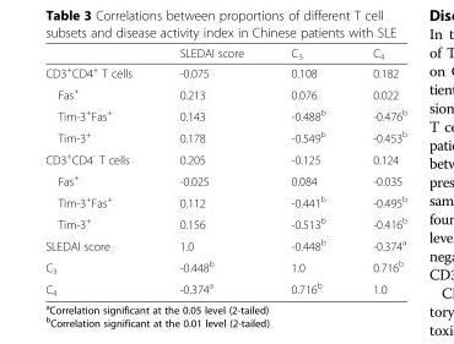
<table><thead><tr><td></td><td>SLEDAI score</td><td>C<sub>3</sub></td><td>C<sub>4</sub></td></tr></thead><tbody><tr><td>CD3<sup>+</sup>CD4<sup>+</sup> T cells</td><td>-0.075</td><td>0.108</td><td>0.182</td></tr><tr><td>Fas<sup>+</sup></td><td>0.213</td><td>0.076</td><td>0.022</td></tr><tr><td>Tim-3<sup>+</sup>Fas<sup>+</sup></td><td>0.143</td><td>-0.488<sup>b</sup></td><td>-0.476<sup>b</sup></td></tr><tr><td>Tim-3<sup>+</sup></td><td>0.178</td><td>-0.549<sup>b</sup></td><td>-0.453<sup>b</sup></td></tr><tr><td>CD3<sup>+</sup>CD4<sup>-</sup> T cells</td><td>0.205</td><td>-0.125</td><td>0.124</td></tr><tr><td>Fas<sup>+</sup></td><td>-0.025</td><td>0.084</td><td>-0.035</td></tr><tr><td>Tim-3<sup>+</sup>Fas<sup>+</sup></td><td>0.112</td><td>-0.441<sup>b</sup></td><td>-0.495<sup>b</sup></td></tr><tr><td>Tim-3<sup>+</sup></td><td>0.156</td><td>-0.513<sup>b</sup></td><td>-0.416<sup>b</sup></td></tr><tr><td>SLEDAI score</td><td>1.0</td><td>-0.448<sup>b</sup></td><td>-0.374<sup>a</sup></td></tr><tr><td>C<sub>3</sub></td><td>-0.448<sup>b</sup></td><td>1.0</td><td>0.716<sup>b</sup></td></tr><tr><td>C<sub>4</sub></td><td>-0.374<sup>a</sup></td><td>0.716<sup>b</sup></td><td>1.0</td></tr></tbody></table>